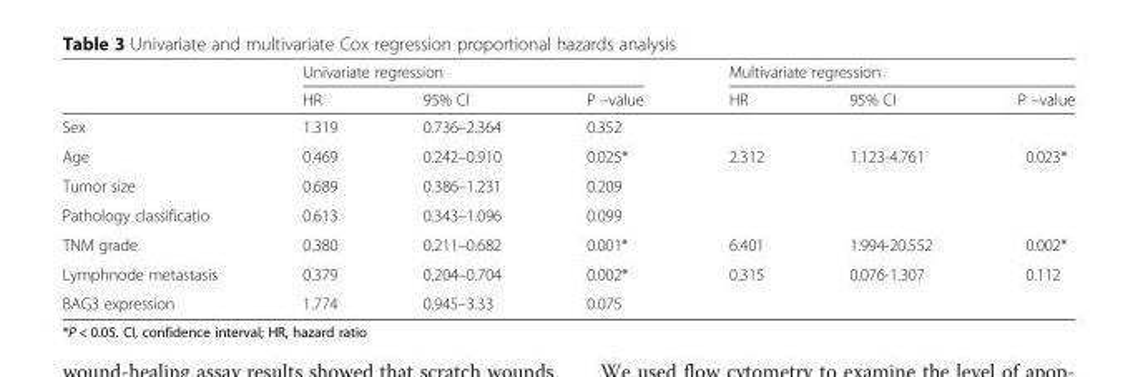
<table><thead><tr><td rowspan="2"></td><td colspan="3">Univariate regression</td><td colspan="3">Multivariate regression</td></tr><tr><td>HR</td><td>95% CI</td><td>P –value</td><td>HR</td><td>95% CI</td><td>P –value</td></tr></thead><tbody><tr><td>Sex</td><td>1.319</td><td>0.736–2.364</td><td>0.352</td><td></td><td></td><td></td></tr><tr><td>Age</td><td>0.469</td><td>0.242–0.910</td><td>0.025*</td><td>2.312</td><td>1.123-4.761</td><td>0.023*</td></tr><tr><td>Tumor size</td><td>0.689</td><td>0.386–1.231</td><td>0.209</td><td></td><td></td><td></td></tr><tr><td>Pathology classificatio</td><td>0.613</td><td>0.343–1.096</td><td>0.099</td><td></td><td></td><td></td></tr><tr><td>TNM grade</td><td>0.380</td><td>0.211–0.682</td><td>0.001*</td><td>6.401</td><td>1.994-20.552</td><td>0.002*</td></tr><tr><td>Lymphnode metastasis</td><td>0.379</td><td>0.204–0.704</td><td>0.002*</td><td>0.315</td><td>0.076-1.307</td><td>0.112</td></tr><tr><td>BAG3 expression</td><td>1.774</td><td>0.945–3.33</td><td>0.075</td><td></td><td></td><td></td></tr></tbody></table>